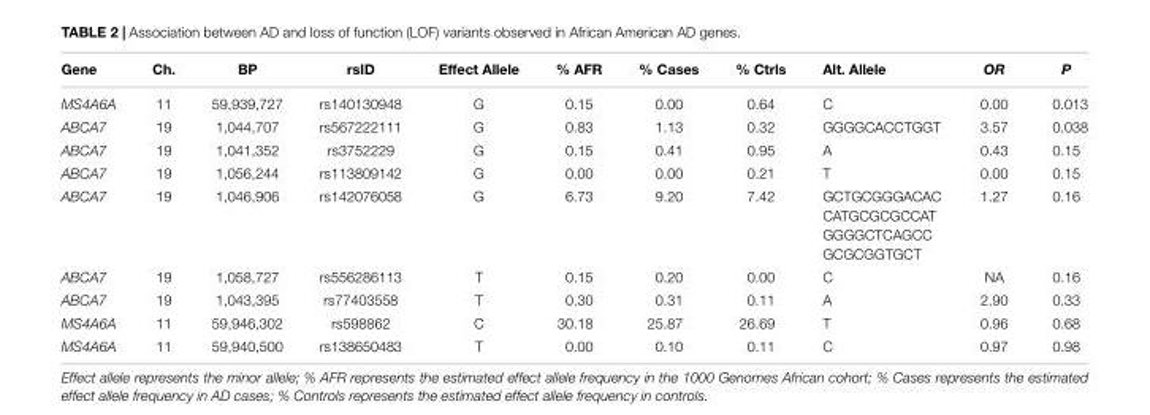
<table><thead><tr><td>Gene</td><td>Ch.</td><td>BP</td><td>rsID</td><td>Effect Allele</td><td>% AFR</td><td>% Cases</td><td>% Ctrls</td><td>Alt. Allele</td><td>OR</td><td>P</td></tr></thead><tbody><tr><td>MS4A6A</td><td>11</td><td>59,939,727</td><td>rs140130948</td><td>G</td><td>0.15</td><td>0.00</td><td>0.64</td><td>C</td><td>0.00</td><td>0.013</td></tr><tr><td>ABCA7</td><td>19</td><td>1,044,707</td><td>rs567222111</td><td>G</td><td>0.83</td><td>1.13</td><td>0.32</td><td>GGGGCACCTGGT</td><td>3.57</td><td>0.038</td></tr><tr><td>ABCA7</td><td>19</td><td>1,041,352</td><td>rs3752229</td><td>G</td><td>0.15</td><td>0.41</td><td>0.95</td><td>A</td><td>0.43</td><td>0.15</td></tr><tr><td>ABCA7</td><td>19</td><td>1,056,244</td><td>rs113809142</td><td>G</td><td>0.00</td><td>0.00</td><td>0.21</td><td>T</td><td>0.00</td><td>0.15</td></tr><tr><td>ABCA7</td><td>19</td><td>1,046,906</td><td>rs142076058</td><td>G</td><td>6.73</td><td>9.20</td><td>7.42</td><td>GCTGCGGGACAC CATGCGCGCCAT GGGGCTCAGCC GCGCGGTGCT</td><td>1.27</td><td>0.16</td></tr><tr><td>ABCA7</td><td>19</td><td>1,058,727</td><td>rs556286113</td><td>T</td><td>0.15</td><td>0.20</td><td>0.00</td><td>C</td><td>NA</td><td>0.16</td></tr><tr><td>ABCA7</td><td>19</td><td>1,043,395</td><td>rs77403558</td><td>T</td><td>0.30</td><td>0.31</td><td>0.11</td><td>A</td><td>2.90</td><td>0.33</td></tr><tr><td>MS4A6A</td><td>11</td><td>59,946,302</td><td>rs598862</td><td>C</td><td>30.18</td><td>25.87</td><td>26.69</td><td>T</td><td>0.96</td><td>0.68</td></tr><tr><td>MS4A6A</td><td>11</td><td>59,940,500</td><td>rs138650483</td><td>T</td><td>0.00</td><td>0.10</td><td>0.11</td><td>C</td><td>0.97</td><td>0.98</td></tr></tbody></table>